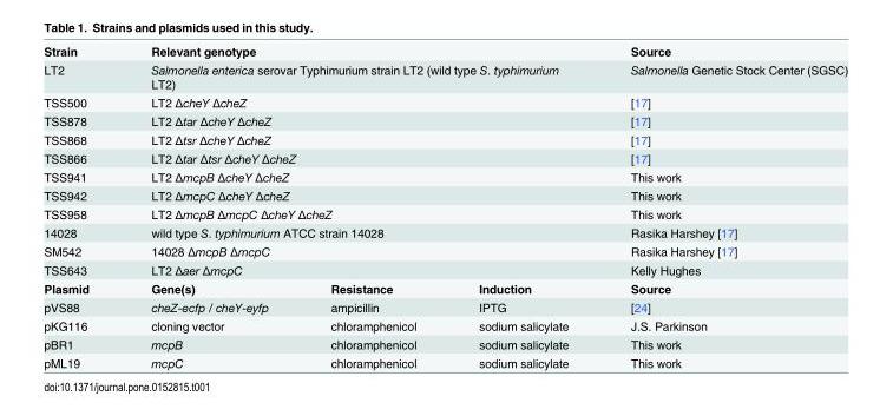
<table><tbody><tr><td>Strain</td><td colspan="3">Relevant genotype</td><td>Source</td></tr><tr><td>LT2</td><td colspan="3">Salmonella enterica serovar Typhimurium strain LT2 (wild type S. typhimurium LT2)</td><td>Salmonella Genetic Stock Center (SGSC)</td></tr><tr><td>TSS500</td><td colspan="3">LT2 ΔcheY ΔcheZ</td><td>[17]</td></tr><tr><td>TSS878</td><td colspan="3">LT2 Δtar ΔcheY ΔcheZ</td><td>[17]</td></tr><tr><td>TSS868</td><td colspan="3">LT2 Δtsr ΔcheY ΔcheZ</td><td>[17]</td></tr><tr><td>TSS866</td><td colspan="3">LT2 Δtar Δtsr ΔcheY ΔcheZ</td><td>[17]</td></tr><tr><td>TSS941</td><td colspan="3">LT2 ΔmcpB ΔcheY ΔcheZ</td><td>This work</td></tr><tr><td>TSS942</td><td colspan="3">LT2 ΔmcpC ΔcheY ΔcheZ</td><td>This work</td></tr><tr><td>TSS958</td><td colspan="3">LT2 ΔmcpB ΔmcpC ΔcheY ΔcheZ</td><td>This work</td></tr><tr><td>14028</td><td colspan="3">wild type S. typhimurium ATCC strain 14028</td><td>Rasika Harshey [17]</td></tr><tr><td>SM542</td><td colspan="3">14028 ΔmcpB ΔmcpC</td><td>Rasika Harshey [17]</td></tr><tr><td>TSS643</td><td colspan="3">LT2 Δaer ΔmcpC</td><td>Kelly Hughes</td></tr><tr><td>Plasmid</td><td>Gene(s)</td><td>Resistance</td><td>Induction</td><td>Source</td></tr><tr><td>pVS88</td><td>cheZ-ecfp / cheY-eyfp</td><td>ampicillin</td><td>IPTG</td><td>[24]</td></tr><tr><td>pKG116</td><td>cloning vector</td><td>chloramphenicol</td><td>sodium salicylate</td><td>J.S. Parkinson</td></tr><tr><td>pBR1</td><td>mcpB</td><td>chloramphenicol</td><td>sodium salicylate</td><td>This work</td></tr><tr><td>pML19</td><td>mcpC</td><td>chloramphenicol</td><td>sodium salicylate</td><td>This work</td></tr></tbody></table>